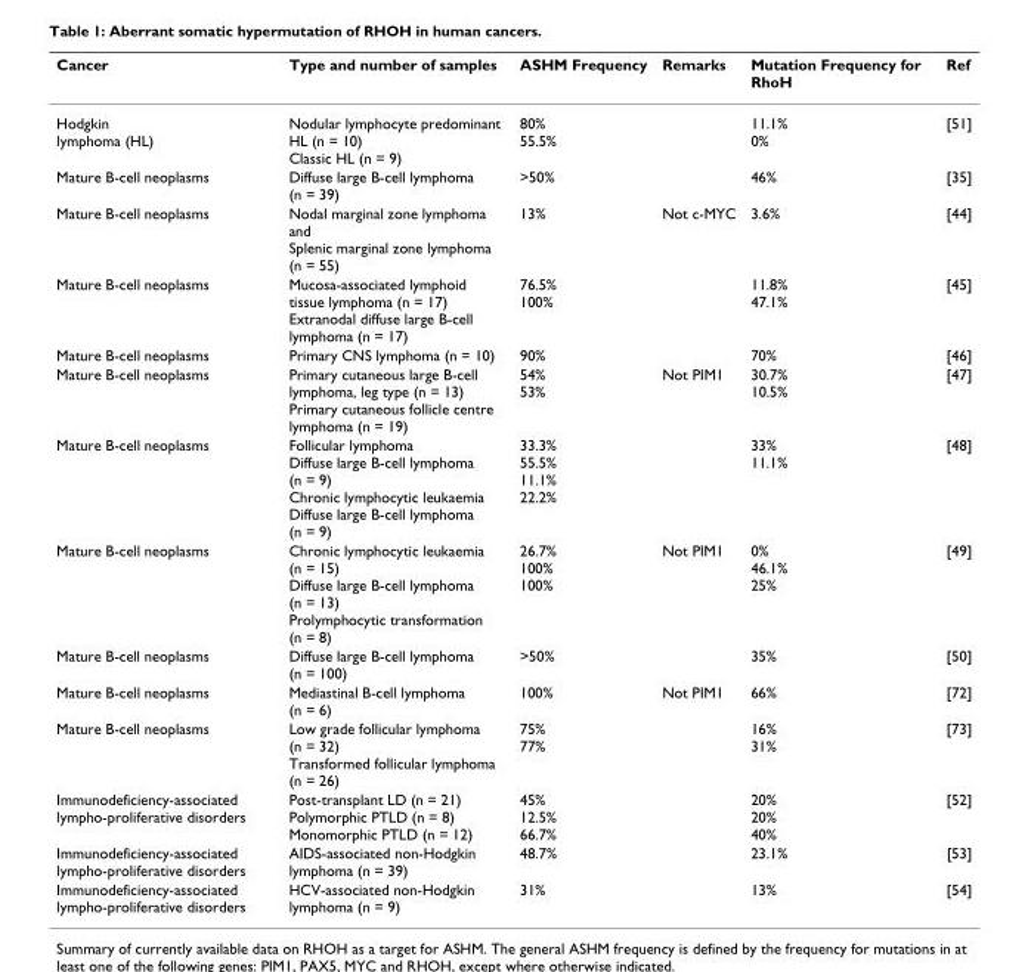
<table><thead><tr><td>Cancer</td><td>Type and number of samples</td><td>ASHM Frequency</td><td>Remarks</td><td>Mutation Frequency for RhoH</td><td>Ref</td></tr></thead><tbody><tr><td>Hodgkin lymphoma (HL)</td><td>Nodular lymphocyte predominant HL (n = 10) Classic HL (n = 9)</td><td>80% 55.5%</td><td></td><td>11.1% 0%</td><td>[51]</td></tr><tr><td>Mature B-cell neoplasms</td><td>Diffuse large B-cell lymphoma (n = 39)</td><td>&gt;50%</td><td></td><td>46%</td><td>[35]</td></tr><tr><td>Mature B-cell neoplasms</td><td>Nodal marginal zone lymphoma and Splenic marginal zone lymphoma (n = 55)</td><td>13%</td><td>Not c-MYC</td><td>3.6%</td><td>[44]</td></tr><tr><td>Mature B-cell neoplasms</td><td>Mucosa-associated lymphoid tissue lymphoma (n = 17) Extranodal diffuse large B-cell lymphoma (n = 17)</td><td>76.5% 100%</td><td></td><td>11.8% 47.1%</td><td>[45]</td></tr><tr><td>Mature B-cell neoplasms</td><td>Primary CNS lymphoma (n = 10)</td><td>90%</td><td></td><td>70%</td><td>[46]</td></tr><tr><td>Mature B-cell neoplasms</td><td>Primary cutaneous large B-cell lymphoma, leg type (n = 13) Primary cutaneous follicle centre lymphoma (n = 19)</td><td>54% 53%</td><td>Not PIM1</td><td>30.7% 10.5%</td><td>[47]</td></tr><tr><td>Mature B-cell neoplasms</td><td>Follicular lymphoma Diffuse large B-cell lymphoma (n = 9) Chronic lymphocytic leukaemia Diffuse large B-cell lymphoma (n = 9)</td><td>33.3% 55.5% 11.1% 22.2%</td><td></td><td>33% 11.1%</td><td>[48]</td></tr><tr><td>Mature B-cell neoplasms</td><td>Chronic lymphocytic leukaemia (n = 15) Diffuse large B-cell lymphoma (n = 13) Prolymphocytic transformation (n = 8)</td><td>26.7% 100% 100%</td><td>Not PIM1</td><td>0% 46.1% 25%</td><td>[49]</td></tr><tr><td>Mature B-cell neoplasms</td><td>Diffuse large B-cell lymphoma (n = 100)</td><td>&gt;50%</td><td></td><td>35%</td><td>[50]</td></tr><tr><td>Mature B-cell neoplasms</td><td>Mediastinal B-cell lymphoma (n = 6)</td><td>100%</td><td>Not PIM1</td><td>66%</td><td>[72]</td></tr><tr><td>Mature B-cell neoplasms</td><td>Low grade follicular lymphoma (n = 32) Transformed follicular lymphoma (n = 26)</td><td>75% 77%</td><td></td><td>16% 31%</td><td>[73]</td></tr><tr><td>Immunodeficiency-associated lympho-proliferative disorders</td><td>Post-transplant LD (n = 21) Polymorphic PTLD (n = 8) Monomorphic PTLD (n = 12)</td><td>45% 12.5% 66.7%</td><td></td><td>20% 20% 40%</td><td>[52]</td></tr><tr><td>Immunodeficiency-associated lympho-proliferative disorders</td><td>AIDS-associated non-Hodgkin lymphoma (n = 39)</td><td>48.7%</td><td></td><td>23.1%</td><td>[53]</td></tr><tr><td>Immunodeficiency-associated lympho-proliferative disorders</td><td>HCV-associated non-Hodgkin lymphoma (n = 9)</td><td>31%</td><td></td><td>13%</td><td>[54]</td></tr></tbody></table>